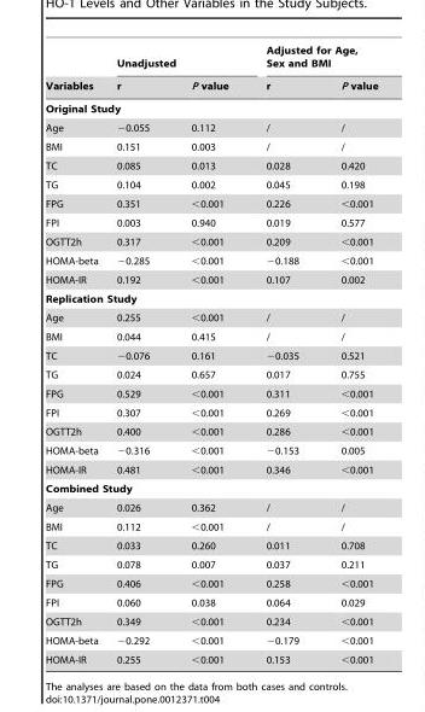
<table><thead><tr><td rowspan="2">Variables</td><td colspan="2">Unadjusted</td><td colspan="2">Adjusted for Age, Sex and BMI</td></tr><tr><td>r</td><td>P value</td><td>r</td><td>P value</td></tr></thead><tbody><tr><td colspan="5">Original Study</td></tr><tr><td>Age</td><td>−0.055</td><td>0.112</td><td>/</td><td>/</td></tr><tr><td>BMI</td><td>0.151</td><td>0.003</td><td>/</td><td>/</td></tr><tr><td>TC</td><td>0.085</td><td>0.013</td><td>0.028</td><td>0.420</td></tr><tr><td>TG</td><td>0.104</td><td>0.002</td><td>0.045</td><td>0.198</td></tr><tr><td>FPG</td><td>0.351</td><td>&lt;0.001</td><td>0.226</td><td>&lt;0.001</td></tr><tr><td>FPI</td><td>0.003</td><td>0.940</td><td>0.019</td><td>0.577</td></tr><tr><td>OGTT2h</td><td>0.317</td><td>&lt;0.001</td><td>0.209</td><td>&lt;0.001</td></tr><tr><td>HOMA-beta</td><td>−0.285</td><td>&lt;0.001</td><td>−0.188</td><td>&lt;0.001</td></tr><tr><td>HOMA-IR</td><td>0.192</td><td>&lt;0.001</td><td>0.107</td><td>0.002</td></tr><tr><td colspan="5">Replication Study</td></tr><tr><td>Age</td><td>0.255</td><td>&lt;0.001</td><td>/</td><td>/</td></tr><tr><td>BMI</td><td>0.044</td><td>0.415</td><td>/</td><td>/</td></tr><tr><td>TC</td><td>−0.076</td><td>0.161</td><td>−0.035</td><td>0.521</td></tr><tr><td>TG</td><td>0.024</td><td>0.657</td><td>0.017</td><td>0.755</td></tr><tr><td>FPG</td><td>0.529</td><td>&lt;0.001</td><td>0.311</td><td>&lt;0.001</td></tr><tr><td>FPI</td><td>0.307</td><td>&lt;0.001</td><td>0.269</td><td>&lt;0.001</td></tr><tr><td>OGTT2h</td><td>0.400</td><td>&lt;0.001</td><td>0.286</td><td>&lt;0.001</td></tr><tr><td>HOMA-beta</td><td>−0.316</td><td>&lt;0.001</td><td>−0.153</td><td>0.005</td></tr><tr><td>HOMA-IR</td><td>0.481</td><td>&lt;0.001</td><td>0.346</td><td>&lt;0.001</td></tr><tr><td colspan="5">Combined Study</td></tr><tr><td>Age</td><td>0.026</td><td>0.362</td><td>/</td><td>/</td></tr><tr><td>BMI</td><td>0.112</td><td>&lt;0.001</td><td>/</td><td>/</td></tr><tr><td>TC</td><td>0.033</td><td>0.260</td><td>0.011</td><td>0.708</td></tr><tr><td>TG</td><td>0.078</td><td>0.007</td><td>0.037</td><td>0.211</td></tr><tr><td>FPG</td><td>0.406</td><td>&lt;0.001</td><td>0.258</td><td>&lt;0.001</td></tr><tr><td>FPI</td><td>0.060</td><td>0.038</td><td>0.064</td><td>0.029</td></tr><tr><td>OGTT2h</td><td>0.349</td><td>&lt;0.001</td><td>0.234</td><td>&lt;0.001</td></tr><tr><td>HOMA-beta</td><td>−0.292</td><td>&lt;0.001</td><td>−0.179</td><td>&lt;0.001</td></tr><tr><td>HOMA-IR</td><td>0.255</td><td>&lt;0.001</td><td>0.153</td><td>&lt;0.001</td></tr></tbody></table>